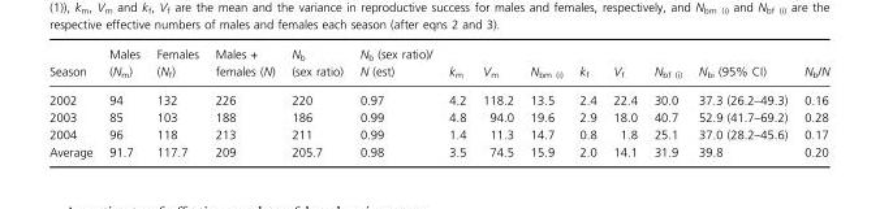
<table><thead><tr><td>Season</td><td>Males (N<sub>m</sub>)</td><td>Females (N<sub>f</sub>)</td><td>Males + females (N)</td><td>N<sub>b</sub> (sex ratio)</td><td>N<sub>b</sub> (sex ratio)/ N (est)</td><td>k<sub>m</sub></td><td>V<sub>m</sub></td><td>N<sub>bm (i)</sub></td><td>k<sub>f</sub></td><td>V<sub>f</sub></td><td>N<sub>bf (i)</sub></td><td>N<sub>bi</sub> (95% CI)</td><td>N<sub>b</sub>/N</td></tr></thead><tbody><tr><td>2002</td><td>94</td><td>132</td><td>226</td><td>220</td><td>0.97</td><td>4.2</td><td>118.2</td><td>13.5</td><td>2.4</td><td>22.4</td><td>30.0</td><td>37.3 (26.2–49.3)</td><td>0.16</td></tr><tr><td>2003</td><td>85</td><td>103</td><td>188</td><td>186</td><td>0.99</td><td>4.8</td><td>94.0</td><td>19.6</td><td>2.9</td><td>18.0</td><td>40.7</td><td>52.9 (41.7–69.2)</td><td>0.28</td></tr><tr><td>2004</td><td>96</td><td>118</td><td>213</td><td>211</td><td>0.99</td><td>1.4</td><td>11.3</td><td>14.7</td><td>0.8</td><td>1.8</td><td>25.1</td><td>37.0 (28.2–45.6)</td><td>0.17</td></tr><tr><td>Average</td><td>91.7</td><td>117.7</td><td>209</td><td>205.7</td><td>0.98</td><td>3.5</td><td>74.5</td><td>15.9</td><td>2.0</td><td>14.1</td><td>31.9</td><td>39.8</td><td>0.20</td></tr></tbody></table>